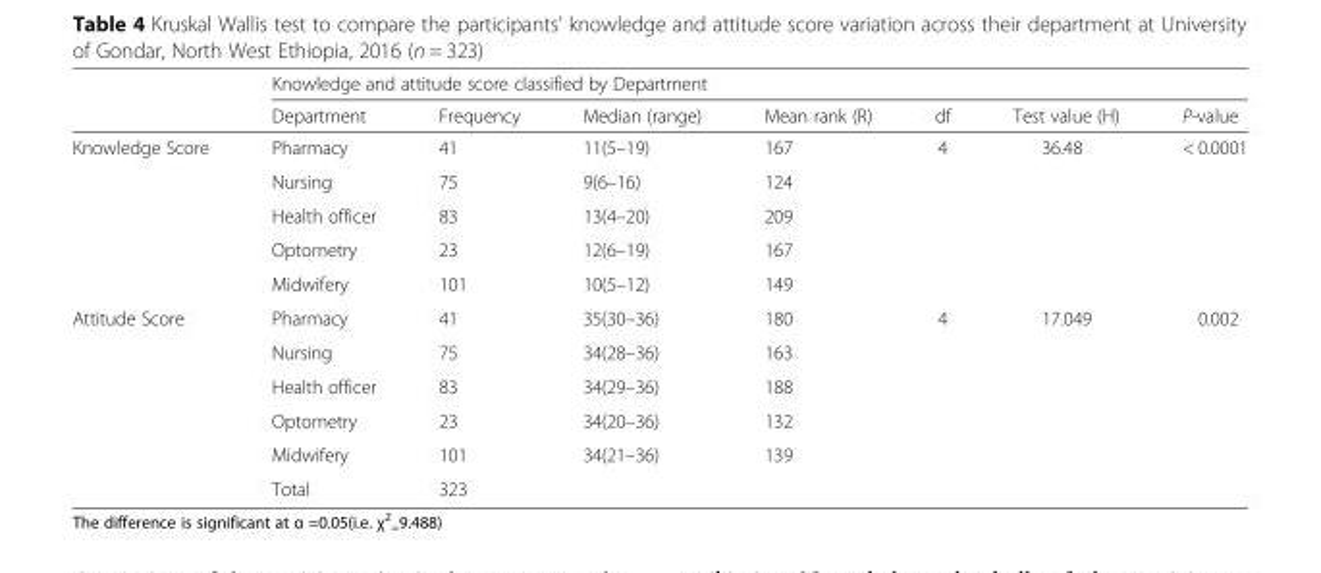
<table><thead><tr><td rowspan="2"></td><td colspan="7">Knowledge and attitude score classified by Department</td></tr><tr><td>Department</td><td>Frequency</td><td>Median (range)</td><td>Mean rank (R)</td><td>df</td><td>Test value (H)</td><td>P-value</td></tr></thead><tbody><tr><td rowspan="5">Knowledge Score</td><td>Pharmacy</td><td>41</td><td>11(5–19)</td><td>167</td><td>4</td><td>36.48</td><td>&lt; 0.0001</td></tr><tr><td>Nursing</td><td>75</td><td>9(6–16)</td><td>124</td><td></td><td></td><td></td></tr><tr><td>Health officer</td><td>83</td><td>13(4–20)</td><td>209</td><td></td><td></td><td></td></tr><tr><td>Optometry</td><td>23</td><td>12(6–19)</td><td>167</td><td></td><td></td><td></td></tr><tr><td>Midwifery</td><td>101</td><td>10(5–12)</td><td>149</td><td></td><td></td><td></td></tr><tr><td rowspan="6">Attitude Score</td><td>Pharmacy</td><td>41</td><td>35(30–36)</td><td>180</td><td>4</td><td>17.049</td><td>0.002</td></tr><tr><td>Nursing</td><td>75</td><td>34(28–36)</td><td>163</td><td></td><td></td><td></td></tr><tr><td>Health officer</td><td>83</td><td>34(29–36)</td><td>188</td><td></td><td></td><td></td></tr><tr><td>Optometry</td><td>23</td><td>34(20–36)</td><td>132</td><td></td><td></td><td></td></tr><tr><td>Midwifery</td><td>101</td><td>34(21–36)</td><td>139</td><td></td><td></td><td></td></tr><tr><td>Total</td><td>323</td><td colspan="5"></td></tr></tbody></table>